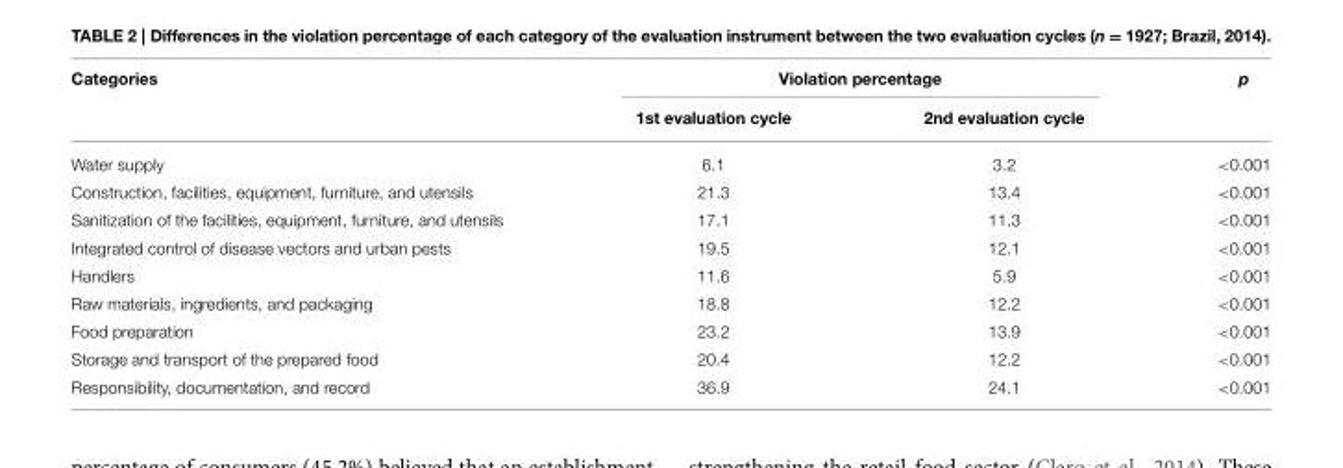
<table><thead><tr><td rowspan="2">Categories</td><td colspan="2">Violation percentage</td><td rowspan="2">p</td></tr><tr><td>1st evaluation cycle</td><td>2nd evaluation cycle</td></tr></thead><tbody><tr><td>Water supply</td><td>6.1</td><td>3.2</td><td>&lt;0.001</td></tr><tr><td>Construction, facilities, equipment, furniture, and utensils</td><td>21.3</td><td>13.4</td><td>&lt;0.001</td></tr><tr><td>Sanitization of the facilities, equipment, furniture, and utensils</td><td>17.1</td><td>11.3</td><td>&lt;0.001</td></tr><tr><td>Integrated control of disease vectors and urban pests</td><td>19.5</td><td>12.1</td><td>&lt;0.001</td></tr><tr><td>Handlers</td><td>11.6</td><td>5.9</td><td>&lt;0.001</td></tr><tr><td>Raw materials, ingredients, and packaging</td><td>18.8</td><td>12.2</td><td>&lt;0.001</td></tr><tr><td>Food preparation</td><td>23.2</td><td>13.9</td><td>&lt;0.001</td></tr><tr><td>Storage and transport of the prepared food</td><td>20.4</td><td>12.2</td><td>&lt;0.001</td></tr><tr><td>Responsibility, documentation, and record</td><td>36.9</td><td>24.1</td><td>&lt;0.001</td></tr></tbody></table>